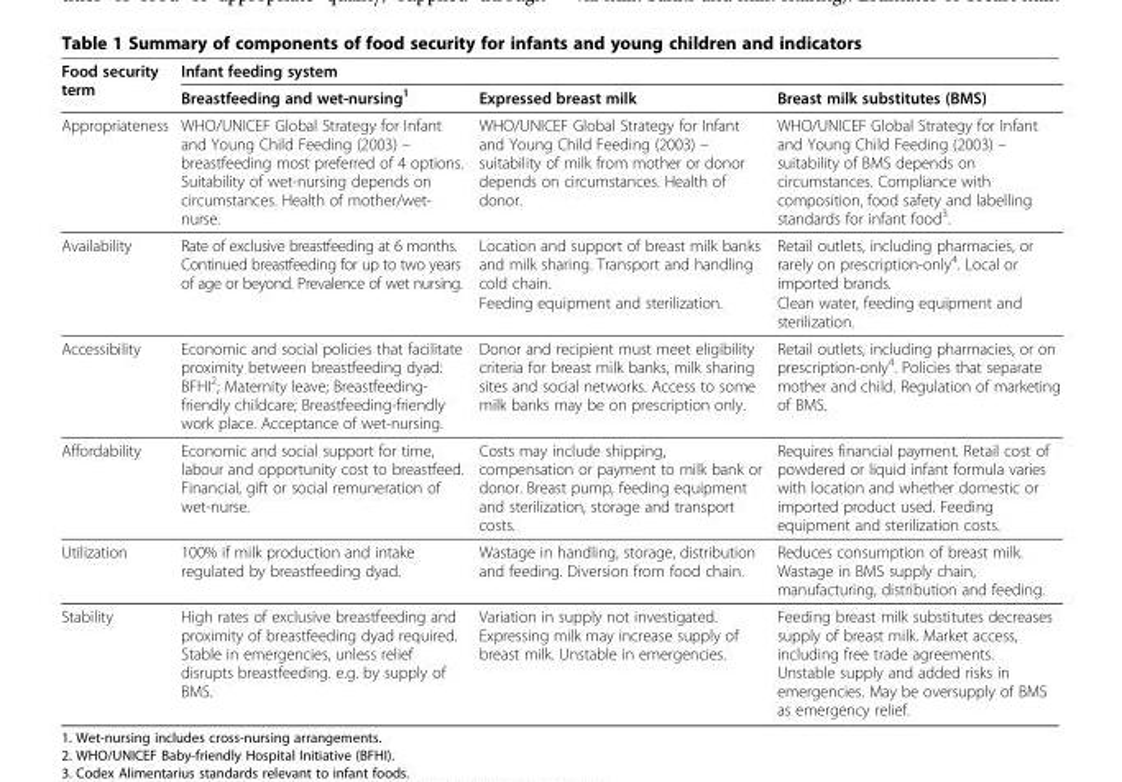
<table><thead><tr><td rowspan="2">Food security term</td><td colspan="3">Infant feeding system</td></tr><tr><td>Breastfeeding and wet-nursing<sup>1</sup></td><td>Expressed breast milk</td><td>Breast milk substitutes (BMS)</td></tr></thead><tbody><tr><td>Appropriateness</td><td>WHO/UNICEF Global Strategy for Infant and Young Child Feeding (2003) – breastfeeding most preferred of 4 options. Suitability of wet-nursing depends on circumstances. Health of mother/wet- nurse.</td><td>WHO/UNICEF Global Strategy for Infant and Young Child Feeding (2003) – suitability of milk from mother or donor depends on circumstances. Health of donor.</td><td>WHO/UNICEF Global Strategy for Infant and Young Child Feeding (2003) – suitability of BMS depends on circumstances. Compliance with composition, food safety and labelling standards for infant food<sup>3</sup>.</td></tr><tr><td rowspan="2">Availability</td><td>Rate of exclusive breastfeeding at 6 months. Continued breastfeeding for up to two years of age or beyond. Prevalence of wet nursing.</td><td>Location and support of breast milk banks and milk sharing. Transport and handling cold chain.</td><td>Retail outlets, including pharmacies, or rarely on prescription-only<sup>4</sup>. Local or imported brands.</td></tr><tr><td></td><td>Feeding equipment and sterilization.</td><td>Clean water, feeding equipment and sterilization.</td></tr><tr><td>Accessibility</td><td>Economic and social policies that facilitate proximity between breastfeeding dyad: BFHI<sup>2</sup>; Maternity leave; Breastfeeding- friendly childcare; Breastfeeding-friendly work place. Acceptance of wet-nursing.</td><td>Donor and recipient must meet eligibility criteria for breast milk banks, milk sharing sites and social networks. Access to some milk banks may be on prescription only.</td><td>Retail outlets, including pharmacies, or on prescription-only<sup>4</sup>. Policies that separate mother and child. Regulation of marketing of BMS.</td></tr><tr><td>Affordability</td><td>Economic and social support for time, labour and opportunity cost to breastfeed. Financial, gift or social remuneration of wet-nurse.</td><td>Costs may include shipping, compensation or payment to milk bank or donor. Breast pump, feeding equipment and sterilization, storage and transport costs.</td><td>Requires financial payment. Retail cost of powdered or liquid infant formula varies with location and whether domestic or imported product used. Feeding equipment and sterilization costs.</td></tr><tr><td>Utilization</td><td>100% if milk production and intake regulated by breastfeeding dyad.</td><td>Wastage in handling, storage, distribution and feeding. Diversion from food chain.</td><td>Reduces consumption of breast milk. Wastage in BMS supply chain, manufacturing, distribution and feeding.</td></tr><tr><td>Stability</td><td>High rates of exclusive breastfeeding and proximity of breastfeeding dyad required. Stable in emergencies, unless relief disrupts breastfeeding. e.g. by supply of BMS.</td><td>Variation in supply not investigated. Expressing milk may increase supply of breast milk. Unstable in emergencies.</td><td>Feeding breast milk substitutes decreases supply of breast milk. Market access, including free trade agreements. Unstable supply and added risks in emergencies. May be oversupply of BMS as emergency relief.</td></tr></tbody></table>